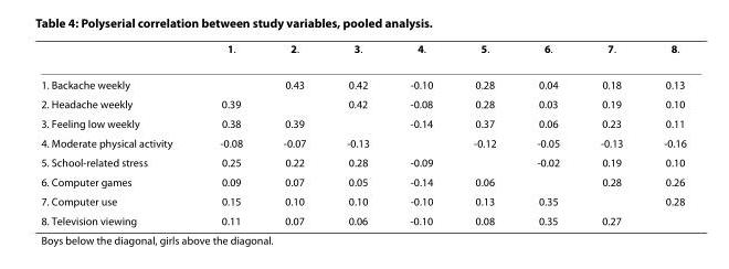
<table><thead><tr><td></td><td>1.</td><td>2.</td><td>3.</td><td>4.</td><td>5.</td><td>6.</td><td>7.</td><td>8.</td></tr></thead><tbody><tr><td>1. Backache weekly</td><td></td><td>0.43</td><td>0.42</td><td>-0.10</td><td>0.28</td><td>0.04</td><td>0.18</td><td>0.13</td></tr><tr><td>2. Headache weekly</td><td>0.39</td><td></td><td>0.42</td><td>-0.08</td><td>0.28</td><td>0.03</td><td>0.19</td><td>0.10</td></tr><tr><td>3. Feeling low weekly</td><td>0.38</td><td>0.39</td><td></td><td>-0.14</td><td>0.37</td><td>0.06</td><td>0.23</td><td>0.11</td></tr><tr><td>4. Moderate physical activity</td><td>-0.08</td><td>-0.07</td><td>-0.13</td><td></td><td>-0.12</td><td>-0.05</td><td>-0.13</td><td>-0.16</td></tr><tr><td>5. School-related stress</td><td>0.25</td><td>0.22</td><td>0.28</td><td>-0.09</td><td></td><td>-0.02</td><td>0.19</td><td>0.10</td></tr><tr><td>6. Computer games</td><td>0.09</td><td>0.07</td><td>0.05</td><td>-0.14</td><td>0.06</td><td></td><td>0.28</td><td>0.26</td></tr><tr><td>7. Computer use</td><td>0.15</td><td>0.10</td><td>0.10</td><td>-0.10</td><td>0.13</td><td>0.35</td><td></td><td>0.28</td></tr><tr><td>8. Television viewing</td><td>0.11</td><td>0.07</td><td>0.06</td><td>-0.10</td><td>0.08</td><td>0.35</td><td>0.27</td><td></td></tr></tbody></table>